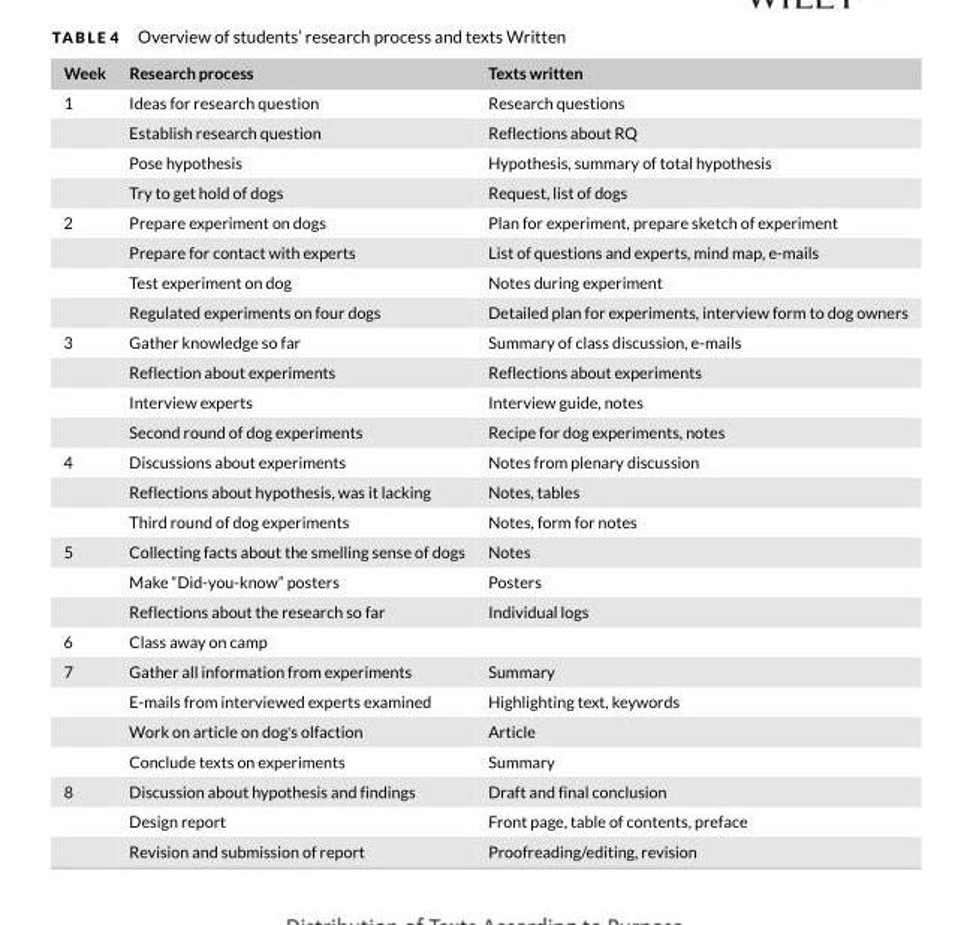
<table><thead><tr><td>Week</td><td>Research process</td><td>Texts written</td></tr></thead><tbody><tr><td rowspan="4">1</td><td>Ideas for research question</td><td>Research questions</td></tr><tr><td>Establish research question</td><td>Reflections about RQ</td></tr><tr><td>Pose hypothesis</td><td>Hypothesis, summary of total hypothesis</td></tr><tr><td>Try to get hold of dogs</td><td>Request, list of dogs</td></tr><tr><td rowspan="4">2</td><td>Prepare experiment on dogs</td><td>Plan for experiment, prepare sketch of experiment</td></tr><tr><td>Prepare for contact with experts</td><td>List of questions and experts, mind map, e-mails</td></tr><tr><td>Test experiment on dog</td><td>Notes during experiment</td></tr><tr><td>Regulated experiments on four dogs</td><td>Detailed plan for experiments, interview form to dog owners</td></tr><tr><td rowspan="4">3</td><td>Gather knowledge so far</td><td>Summary of class discussion, e-mails</td></tr><tr><td>Reflection about experiments</td><td>Reflections about experiments</td></tr><tr><td>Interview experts</td><td>Interview guide, notes</td></tr><tr><td>Second round of dog experiments</td><td>Recipe for dog experiments, notes</td></tr><tr><td rowspan="3">4</td><td>Discussions about experiments</td><td>Notes from plenary discussion</td></tr><tr><td>Reflections about hypothesis, was it lacking</td><td>Notes, tables</td></tr><tr><td>Third round of dog experiments</td><td>Notes, form for notes</td></tr><tr><td rowspan="3">5</td><td>Collecting facts about the smelling sense of dogs</td><td>Notes</td></tr><tr><td>Make “Did-you-know” posters</td><td>Posters</td></tr><tr><td>Reflections about the research so far</td><td>Individual logs</td></tr><tr><td>6</td><td>Class away on camp</td><td></td></tr><tr><td rowspan="4">7</td><td>Gather all information from experiments</td><td>Summary</td></tr><tr><td>E-mails from interviewed experts examined</td><td>Highlighting text, keywords</td></tr><tr><td>Work on article on dog&#x27;s olfaction</td><td>Article</td></tr><tr><td>Conclude texts on experiments</td><td>Summary</td></tr><tr><td rowspan="3">8</td><td>Discussion about hypothesis and findings</td><td>Draft and final conclusion</td></tr><tr><td>Design report</td><td>Front page, table of contents, preface</td></tr><tr><td>Revision and submission of report</td><td>Proofreading/editing, revision</td></tr></tbody></table>